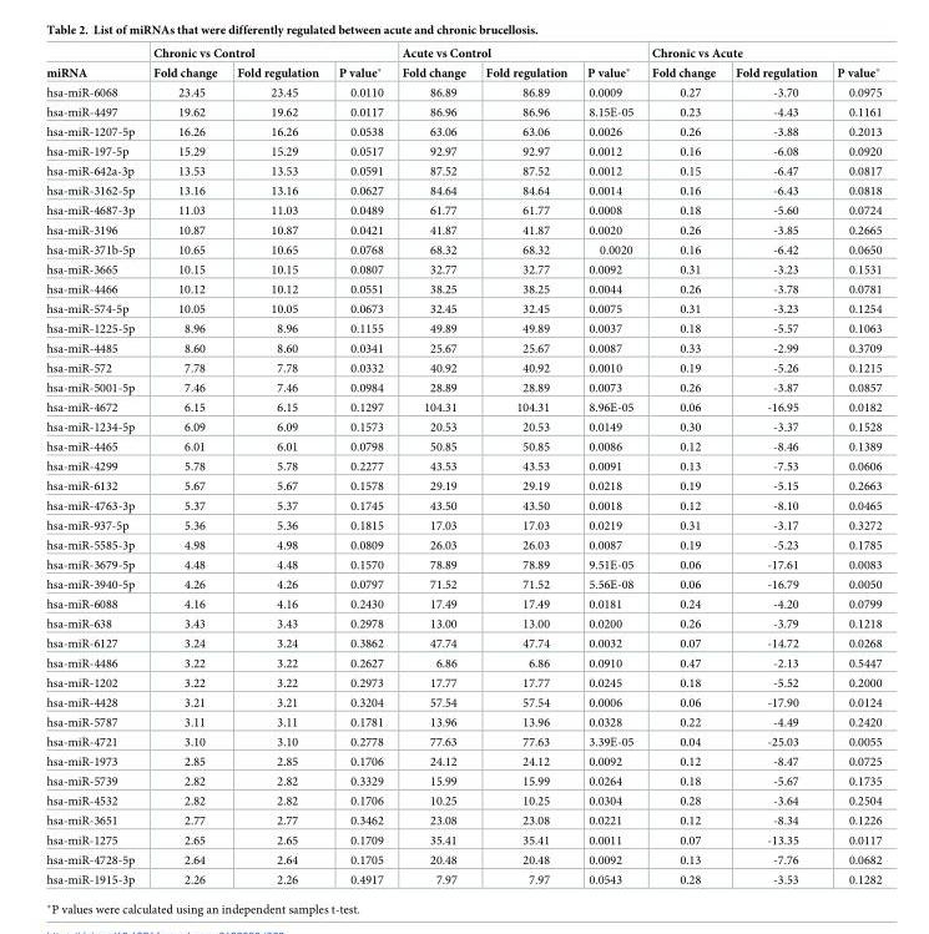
<table><thead><tr><td rowspan="2">miRNA</td><td colspan="3">Chronic vs Control</td><td colspan="3">Acute vs Control</td><td colspan="3">Chronic vs Acute</td></tr><tr><td>Fold change</td><td>Fold regulation</td><td>P value*</td><td>Fold change</td><td>Fold regulation</td><td>P value*</td><td>Fold change</td><td>Fold regulation</td><td>P value*</td></tr></thead><tbody><tr><td>hsa-miR-6068</td><td>23.45</td><td>23.45</td><td>0.0110</td><td>86.89</td><td>86.89</td><td>0.0009</td><td>0.27</td><td>-3.70</td><td>0.0975</td></tr><tr><td>hsa-miR-4497</td><td>19.62</td><td>19.62</td><td>0.0117</td><td>86.96</td><td>86.96</td><td>8.15E-05</td><td>0.23</td><td>-4.43</td><td>0.1161</td></tr><tr><td>hsa-miR-1207-5p</td><td>16.26</td><td>16.26</td><td>0.0538</td><td>63.06</td><td>63.06</td><td>0.0026</td><td>0.26</td><td>-3.88</td><td>0.2013</td></tr><tr><td>hsa-miR-197-5p</td><td>15.29</td><td>15.29</td><td>0.0517</td><td>92.97</td><td>92.97</td><td>0.0012</td><td>0.16</td><td>-6.08</td><td>0.0920</td></tr><tr><td>hsa-miR-642a-3p</td><td>13.53</td><td>13.53</td><td>0.0591</td><td>87.52</td><td>87.52</td><td>0.0012</td><td>0.15</td><td>-6.47</td><td>0.0817</td></tr><tr><td>hsa-miR-3162-5p</td><td>13.16</td><td>13.16</td><td>0.0627</td><td>84.64</td><td>84.64</td><td>0.0014</td><td>0.16</td><td>-6.43</td><td>0.0818</td></tr><tr><td>hsa-miR-4687-3p</td><td>11.03</td><td>11.03</td><td>0.0489</td><td>61.77</td><td>61.77</td><td>0.0008</td><td>0.18</td><td>-5.60</td><td>0.0724</td></tr><tr><td>hsa-miR-3196</td><td>10.87</td><td>10.87</td><td>0.0421</td><td>41.87</td><td>41.87</td><td>0.0020</td><td>0.26</td><td>-3.85</td><td>0.2665</td></tr><tr><td>hsa-miR-371b-5p</td><td>10.65</td><td>10.65</td><td>0.0768</td><td>68.32</td><td>68.32</td><td>0.0020</td><td>0.16</td><td>-6.42</td><td>0.0650</td></tr><tr><td>hsa-miR-3665</td><td>10.15</td><td>10.15</td><td>0.0807</td><td>32.77</td><td>32.77</td><td>0.0092</td><td>0.31</td><td>-3.23</td><td>0.1531</td></tr><tr><td>hsa-miR-4466</td><td>10.12</td><td>10.12</td><td>0.0551</td><td>38.25</td><td>38.25</td><td>0.0044</td><td>0.26</td><td>-3.78</td><td>0.0781</td></tr><tr><td>hsa-miR-574-5p</td><td>10.05</td><td>10.05</td><td>0.0673</td><td>32.45</td><td>32.45</td><td>0.0075</td><td>0.31</td><td>-3.23</td><td>0.1254</td></tr><tr><td>hsa-miR-1225-5p</td><td>8.96</td><td>8.96</td><td>0.1155</td><td>49.89</td><td>49.89</td><td>0.0037</td><td>0.18</td><td>-5.57</td><td>0.1063</td></tr><tr><td>hsa-miR-4485</td><td>8.60</td><td>8.60</td><td>0.0341</td><td>25.67</td><td>25.67</td><td>0.0087</td><td>0.33</td><td>-2.99</td><td>0.3709</td></tr><tr><td>hsa-miR-572</td><td>7.78</td><td>7.78</td><td>0.0332</td><td>40.92</td><td>40.92</td><td>0.0010</td><td>0.19</td><td>-5.26</td><td>0.1215</td></tr><tr><td>hsa-miR-5001-5p</td><td>7.46</td><td>7.46</td><td>0.0984</td><td>28.89</td><td>28.89</td><td>0.0073</td><td>0.26</td><td>-3.87</td><td>0.0857</td></tr><tr><td>hsa-miR-4672</td><td>6.15</td><td>6.15</td><td>0.1297</td><td>104.31</td><td>104.31</td><td>8.96E-05</td><td>0.06</td><td>-16.95</td><td>0.0182</td></tr><tr><td>hsa-miR-1234-5p</td><td>6.09</td><td>6.09</td><td>0.1573</td><td>20.53</td><td>20.53</td><td>0.0149</td><td>0.30</td><td>-3.37</td><td>0.1528</td></tr><tr><td>hsa-miR-4465</td><td>6.01</td><td>6.01</td><td>0.0798</td><td>50.85</td><td>50.85</td><td>0.0086</td><td>0.12</td><td>-8.46</td><td>0.1389</td></tr><tr><td>hsa-miR-4299</td><td>5.78</td><td>5.78</td><td>0.2277</td><td>43.53</td><td>43.53</td><td>0.0091</td><td>0.13</td><td>-7.53</td><td>0.0606</td></tr><tr><td>hsa-miR-6132</td><td>5.67</td><td>5.67</td><td>0.1578</td><td>29.19</td><td>29.19</td><td>0.0218</td><td>0.19</td><td>-5.15</td><td>0.2663</td></tr><tr><td>hsa-miR-4763-3p</td><td>5.37</td><td>5.37</td><td>0.1745</td><td>43.50</td><td>43.50</td><td>0.0018</td><td>0.12</td><td>-8.10</td><td>0.0465</td></tr><tr><td>hsa-miR-937-5p</td><td>5.36</td><td>5.36</td><td>0.1815</td><td>17.03</td><td>17.03</td><td>0.0219</td><td>0.31</td><td>-3.17</td><td>0.3272</td></tr><tr><td>hsa-miR-5585-3p</td><td>4.98</td><td>4.98</td><td>0.0809</td><td>26.03</td><td>26.03</td><td>0.0087</td><td>0.19</td><td>-5.23</td><td>0.1785</td></tr><tr><td>hsa-miR-3679-5p</td><td>4.48</td><td>4.48</td><td>0.1570</td><td>78.89</td><td>78.89</td><td>9.51E-05</td><td>0.06</td><td>-17.61</td><td>0.0083</td></tr><tr><td>hsa-miR-3940-5p</td><td>4.26</td><td>4.26</td><td>0.0797</td><td>71.52</td><td>71.52</td><td>5.56E-08</td><td>0.06</td><td>-16.79</td><td>0.0050</td></tr><tr><td>hsa-miR-6088</td><td>4.16</td><td>4.16</td><td>0.2430</td><td>17.49</td><td>17.49</td><td>0.0181</td><td>0.24</td><td>-4.20</td><td>0.0799</td></tr><tr><td>hsa-miR-638</td><td>3.43</td><td>3.43</td><td>0.2978</td><td>13.00</td><td>13.00</td><td>0.0200</td><td>0.26</td><td>-3.79</td><td>0.1218</td></tr><tr><td>hsa-miR-6127</td><td>3.24</td><td>3.24</td><td>0.3862</td><td>47.74</td><td>47.74</td><td>0.0032</td><td>0.07</td><td>-14.72</td><td>0.0268</td></tr><tr><td>hsa-miR-4486</td><td>3.22</td><td>3.22</td><td>0.2627</td><td>6.86</td><td>6.86</td><td>0.0910</td><td>0.47</td><td>-2.13</td><td>0.5447</td></tr><tr><td>hsa-miR-1202</td><td>3.22</td><td>3.22</td><td>0.2973</td><td>17.77</td><td>17.77</td><td>0.0245</td><td>0.18</td><td>-5.52</td><td>0.2000</td></tr><tr><td>hsa-miR-4428</td><td>3.21</td><td>3.21</td><td>0.3204</td><td>57.54</td><td>57.54</td><td>0.0006</td><td>0.06</td><td>-17.90</td><td>0.0124</td></tr><tr><td>hsa-miR-5787</td><td>3.11</td><td>3.11</td><td>0.1781</td><td>13.96</td><td>13.96</td><td>0.0328</td><td>0.22</td><td>-4.49</td><td>0.2420</td></tr><tr><td>hsa-miR-4721</td><td>3.10</td><td>3.10</td><td>0.2778</td><td>77.63</td><td>77.63</td><td>3.39E-05</td><td>0.04</td><td>-25.03</td><td>0.0055</td></tr><tr><td>hsa-miR-1973</td><td>2.85</td><td>2.85</td><td>0.1706</td><td>24.12</td><td>24.12</td><td>0.0092</td><td>0.12</td><td>-8.47</td><td>0.0725</td></tr><tr><td>hsa-miR-5739</td><td>2.82</td><td>2.82</td><td>0.3329</td><td>15.99</td><td>15.99</td><td>0.0264</td><td>0.18</td><td>-5.67</td><td>0.1735</td></tr><tr><td>hsa-miR-4532</td><td>2.82</td><td>2.82</td><td>0.1706</td><td>10.25</td><td>10.25</td><td>0.0304</td><td>0.28</td><td>-3.64</td><td>0.2504</td></tr><tr><td>hsa-miR-3651</td><td>2.77</td><td>2.77</td><td>0.3462</td><td>23.08</td><td>23.08</td><td>0.0221</td><td>0.12</td><td>-8.34</td><td>0.1226</td></tr><tr><td>hsa-miR-1275</td><td>2.65</td><td>2.65</td><td>0.1709</td><td>35.41</td><td>35.41</td><td>0.0011</td><td>0.07</td><td>-13.35</td><td>0.0117</td></tr><tr><td>hsa-miR-4728-5p</td><td>2.64</td><td>2.64</td><td>0.1705</td><td>20.48</td><td>20.48</td><td>0.0092</td><td>0.13</td><td>-7.76</td><td>0.0682</td></tr><tr><td>hsa-miR-1915-3p</td><td>2.26</td><td>2.26</td><td>0.4917</td><td>7.97</td><td>7.97</td><td>0.0543</td><td>0.28</td><td>-3.53</td><td>0.1282</td></tr></tbody></table>